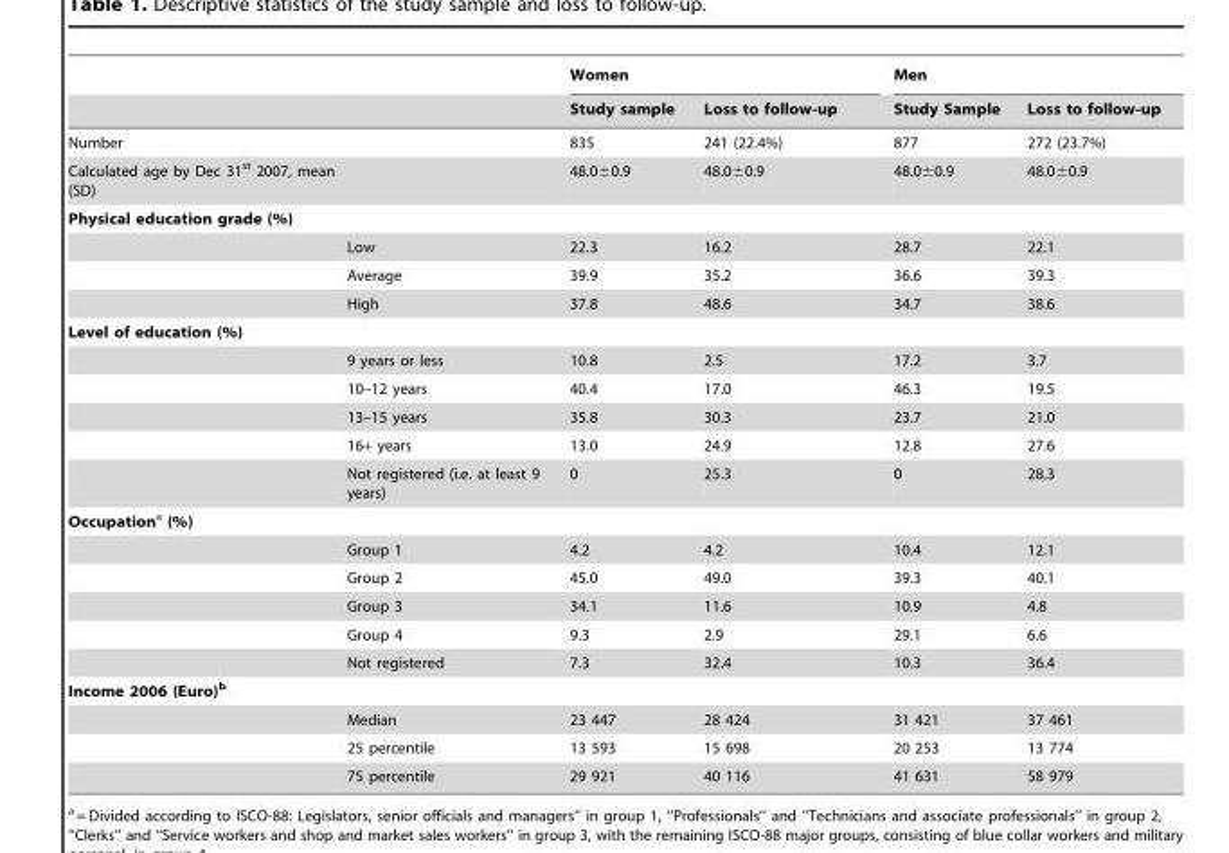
<table><thead><tr><td rowspan="2"></td><td rowspan="2"></td><td colspan="2">Women</td><td colspan="2">Men</td></tr><tr><td>Study sample</td><td>Loss to follow-up</td><td>Study Sample</td><td>Loss to follow-up</td></tr></thead><tbody><tr><td>Number</td><td></td><td>835</td><td>241 (22.4%)</td><td>877</td><td>272 (23.7%)</td></tr><tr><td>Calculated age by Dec 31<sup>st</sup> 2007, mean (SD)</td><td></td><td>48.0±0.9</td><td>48.0±0.9</td><td>48.0±0.9</td><td>48.0±0.9</td></tr><tr><td colspan="6">Physical education grade (%)</td></tr><tr><td></td><td>Low</td><td>22.3</td><td>16.2</td><td>28.7</td><td>22.1</td></tr><tr><td></td><td>Average</td><td>39.9</td><td>35.2</td><td>36.6</td><td>39.3</td></tr><tr><td></td><td>High</td><td>37.8</td><td>48.6</td><td>34.7</td><td>38.6</td></tr><tr><td colspan="6">Level of education (%)</td></tr><tr><td></td><td>9 years or less</td><td>10.8</td><td>2.5</td><td>17.2</td><td>3.7</td></tr><tr><td></td><td>10–12 years</td><td>40.4</td><td>17.0</td><td>46.3</td><td>19.5</td></tr><tr><td></td><td>13–15 years</td><td>35.8</td><td>30.3</td><td>23.7</td><td>21.0</td></tr><tr><td></td><td>16+ years</td><td>13.0</td><td>24.9</td><td>12.8</td><td>27.6</td></tr><tr><td></td><td>Not registered (i.e. at least 9 years)</td><td>0</td><td>25.3</td><td>0</td><td>28.3</td></tr><tr><td colspan="6">Occupationa (%)</td></tr><tr><td></td><td>Group 1</td><td>4.2</td><td>4.2</td><td>10.4</td><td>12.1</td></tr><tr><td></td><td>Group 2</td><td>45.0</td><td>49.0</td><td>39.3</td><td>40.1</td></tr><tr><td></td><td>Group 3</td><td>34.1</td><td>11.6</td><td>10.9</td><td>4.8</td></tr><tr><td></td><td>Group 4</td><td>9.3</td><td>2.9</td><td>29.1</td><td>6.6</td></tr><tr><td></td><td>Not registered</td><td>7.3</td><td>32.4</td><td>10.3</td><td>36.4</td></tr><tr><td colspan="6">Income 2006 (Euro)b</td></tr><tr><td></td><td>Median</td><td>23 447</td><td>28 424</td><td>31 421</td><td>37 461</td></tr><tr><td></td><td>25 percentile</td><td>13 593</td><td>15 698</td><td>20 253</td><td>13 774</td></tr><tr><td></td><td>75 percentile</td><td>29 921</td><td>40 116</td><td>41 631</td><td>58 979</td></tr></tbody></table>